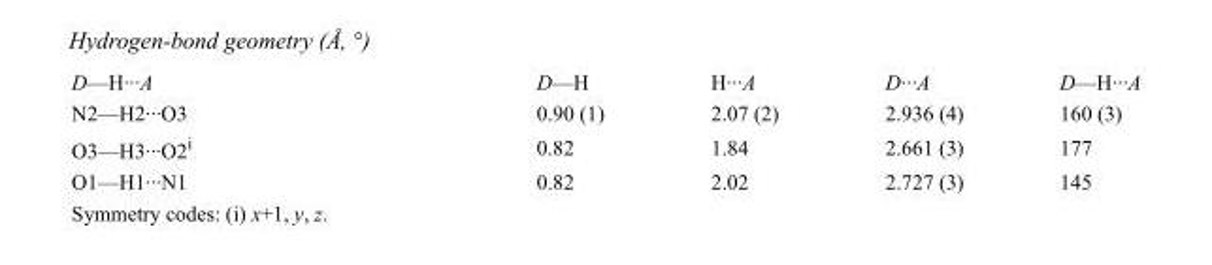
<table><tbody><tr><td>D—H···A</td><td>D—H</td><td>H···A</td><td>D···A</td><td>D—H···A</td></tr><tr><td>N2—H2···O3</td><td>0.90 (1)</td><td>2.07 (2)</td><td>2.936 (4)</td><td>160 (3)</td></tr><tr><td>O3—H3···O2<sup>i</sup></td><td>0.82</td><td>1.84</td><td>2.661 (3)</td><td>177</td></tr><tr><td>O1—H1···N1</td><td>0.82</td><td>2.02</td><td>2.727 (3)</td><td>145</td></tr></tbody></table>